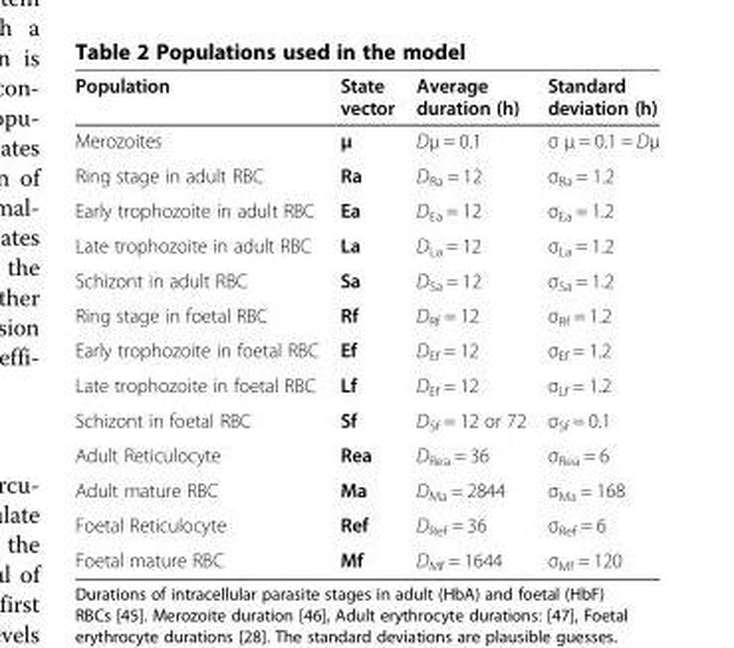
<table><thead><tr><td>Population</td><td>State vector</td><td>Average duration (h)</td><td>Standard deviation (h)</td></tr></thead><tbody><tr><td>Merozoites</td><td>μ</td><td>Dμ = 0.1</td><td>σ μ = 0.1 = Dμ</td></tr><tr><td>Ring stage in adult RBC</td><td>Ra</td><td>D<sub>Ra</sub> = 12</td><td>σ<sub>Ra</sub> = 1.2</td></tr><tr><td>Early trophozoite in adult RBC</td><td>Ea</td><td>D<sub>Ea</sub> = 12</td><td>σ<sub>Ea</sub> = 1.2</td></tr><tr><td>Late trophozoite in adult RBC</td><td>La</td><td>D<sub>La</sub> = 12</td><td>σ<sub>La</sub> = 1.2</td></tr><tr><td>Schizont in adult RBC</td><td>Sa</td><td>D<sub>Sa</sub> = 12</td><td>σ<sub>Sa</sub> = 1.2</td></tr><tr><td>Ring stage in foetal RBC</td><td>Rf</td><td>D<sub>Rf</sub> = 12</td><td>σ<sub>Rf</sub> = 1.2</td></tr><tr><td>Early trophozoite in foetal RBC</td><td>Ef</td><td>D<sub>Ef</sub> = 12</td><td>σ<sub>Ef</sub> = 1.2</td></tr><tr><td>Late trophozoite in foetal RBC</td><td>Lf</td><td>D<sub>Ef</sub> = 12</td><td>σ<sub>Lf</sub> = 1.2</td></tr><tr><td>Schizont in foetal RBC</td><td>Sf</td><td>D<sub>Sf</sub> = 12 or 72</td><td>σ<sub>Sf</sub> = 0.1</td></tr><tr><td>Adult Reticulocyte</td><td>Rea</td><td>D<sub>Rea</sub> = 36</td><td>σ<sub>Rea</sub> = 6</td></tr><tr><td>Adult mature RBC</td><td>Ma</td><td>D<sub>Ma</sub> = 2844</td><td>σ<sub>Ma</sub> = 168</td></tr><tr><td>Foetal Reticulocyte</td><td>Ref</td><td>D<sub>Ref</sub> = 36</td><td>σ<sub>Ref</sub> = 6</td></tr><tr><td>Foetal mature RBC</td><td>Mf</td><td>D<sub>Mf</sub> = 1644</td><td>σ<sub>Mf</sub> = 120</td></tr></tbody></table>